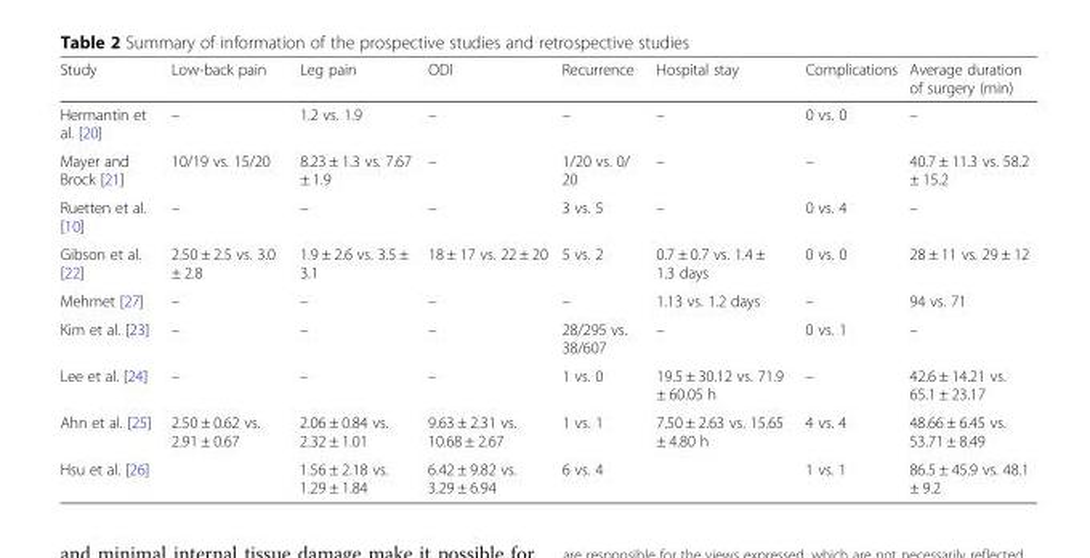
<table><thead><tr><td>Study</td><td>Low-back pain</td><td>Leg pain</td><td>ODI</td><td>Recurrence</td><td>Hospital stay</td><td>Complications</td><td>Average duration of surgery (min)</td></tr></thead><tbody><tr><td>Hermantin et al. [20]</td><td>–</td><td>1.2 vs. 1.9</td><td>–</td><td>–</td><td>–</td><td>0 vs. 0</td><td>–</td></tr><tr><td>Mayer and Brock [21]</td><td>10/19 vs. 15/20</td><td>8.23 ± 1.3 vs. 7.67 ± 1.9</td><td>–</td><td>1/20 vs. 0/ 20</td><td>–</td><td>–</td><td>40.7 ± 11.3 vs. 58.2 ± 15.2</td></tr><tr><td>Ruetten et al. [10]</td><td>–</td><td>–</td><td>–</td><td>3 vs. 5</td><td>–</td><td>0 vs. 4</td><td>–</td></tr><tr><td>Gibson et al. [22]</td><td>2.50 ± 2.5 vs. 3.0 ± 2.8</td><td>1.9 ± 2.6 vs. 3.5 ± 3.1</td><td>18 ± 17 vs. 22 ± 20</td><td>5 vs. 2</td><td>0.7 ± 0.7 vs. 1.4 ± 1.3 days</td><td>0 vs. 0</td><td>28 ± 11 vs. 29 ± 12</td></tr><tr><td>Mehmet [27]</td><td>–</td><td>–</td><td>–</td><td>–</td><td>1.13 vs. 1.2 days</td><td>–</td><td>94 vs. 71</td></tr><tr><td>Kim et al. [23]</td><td>–</td><td>–</td><td>–</td><td>28/295 vs. 38/607</td><td>–</td><td>0 vs. 1</td><td>–</td></tr><tr><td>Lee et al. [24]</td><td>–</td><td>–</td><td>–</td><td>1 vs. 0</td><td>19.5 ± 30.12 vs. 71.9 ± 60.05 h</td><td>–</td><td>42.6 ± 14.21 vs. 65.1 ± 23.17</td></tr><tr><td>Ahn et al. [25]</td><td>2.50 ± 0.62 vs. 2.91 ± 0.67</td><td>2.06 ± 0.84 vs. 2.32 ± 1.01</td><td>9.63 ± 2.31 vs. 10.68 ± 2.67</td><td>1 vs. 1</td><td>7.50 ± 2.63 vs. 15.65 ± 4.80 h</td><td>4 vs. 4</td><td>48.66 ± 6.45 vs. 53.71 ± 8.49</td></tr><tr><td>Hsu et al. [26]</td><td></td><td>1.56 ± 2.18 vs. 1.29 ± 1.84</td><td>6.42 ± 9.82 vs. 3.29 ± 6.94</td><td>6 vs. 4</td><td></td><td>1 vs. 1</td><td>86.5 ± 45.9 vs. 48.1 ± 9.2</td></tr></tbody></table>